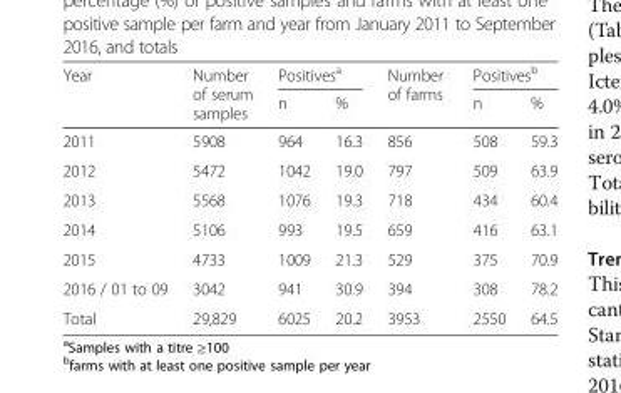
<table><thead><tr><td rowspan="2">Year</td><td rowspan="2">Number of serum samples</td><td colspan="2">Positives<sup>a</sup></td><td rowspan="2">Number of farms</td><td colspan="2">Positives<sup>b</sup></td></tr><tr><td>n</td><td>%</td><td>n</td><td>%</td></tr></thead><tbody><tr><td>2011</td><td>5908</td><td>964</td><td>16.3</td><td>856</td><td>508</td><td>59.3</td></tr><tr><td>2012</td><td>5472</td><td>1042</td><td>19.0</td><td>797</td><td>509</td><td>63.9</td></tr><tr><td>2013</td><td>5568</td><td>1076</td><td>19.3</td><td>718</td><td>434</td><td>60.4</td></tr><tr><td>2014</td><td>5106</td><td>993</td><td>19.5</td><td>659</td><td>416</td><td>63.1</td></tr><tr><td>2015</td><td>4733</td><td>1009</td><td>21.3</td><td>529</td><td>375</td><td>70.9</td></tr><tr><td>2016 / 01 to 09</td><td>3042</td><td>941</td><td>30.9</td><td>394</td><td>308</td><td>78.2</td></tr><tr><td>Total</td><td>29,829</td><td>6025</td><td>20.2</td><td>3953</td><td>2550</td><td>64.5</td></tr></tbody></table>